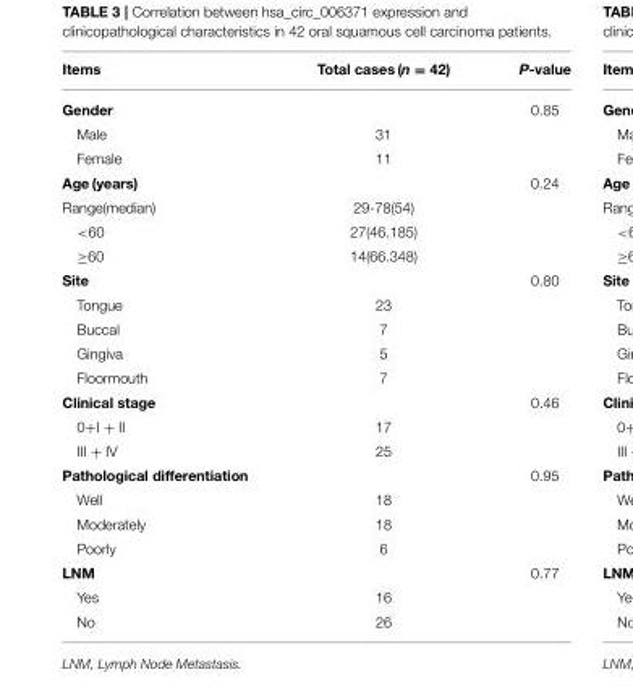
<table><thead><tr><td>Items</td><td>Total cases (n = 42)</td><td>P-value</td></tr></thead><tbody><tr><td>Gender</td><td></td><td>0.85</td></tr><tr><td>Male</td><td>31</td><td></td></tr><tr><td>Female</td><td>11</td><td></td></tr><tr><td>Age (years)</td><td></td><td>0.24</td></tr><tr><td>Range(median)</td><td>29-78(54)</td><td></td></tr><tr><td>&lt;60</td><td>27(46.185)</td><td></td></tr><tr><td>≥60</td><td>14(66.348)</td><td></td></tr><tr><td>Site</td><td></td><td>0.80</td></tr><tr><td>Tongue</td><td>23</td><td></td></tr><tr><td>Buccal</td><td>7</td><td></td></tr><tr><td>Gingiva</td><td>5</td><td></td></tr><tr><td>Floormouth</td><td>7</td><td></td></tr><tr><td>Clinical stage</td><td></td><td>0.46</td></tr><tr><td>0+I + II</td><td>17</td><td></td></tr><tr><td>III + IV</td><td>25</td><td></td></tr><tr><td>Pathological differentiation</td><td></td><td>0.95</td></tr><tr><td>Well</td><td>18</td><td></td></tr><tr><td>Moderately</td><td>18</td><td></td></tr><tr><td>Poorly</td><td>6</td><td></td></tr><tr><td>LNM</td><td></td><td>0.77</td></tr><tr><td>Yes</td><td>16</td><td></td></tr><tr><td>No</td><td>26</td><td></td></tr></tbody></table>